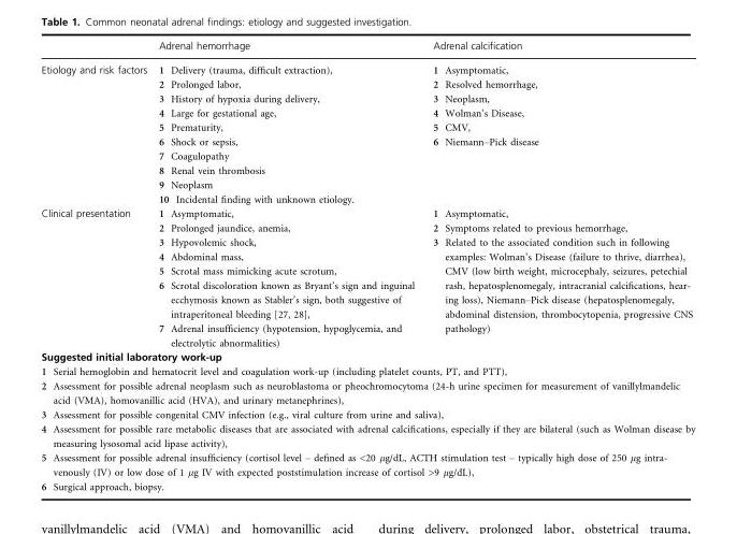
<table><thead><tr><td></td><td>Adrenal hemorrhage</td><td>Adrenal calcification</td></tr></thead><tbody><tr><td>Etiology and risk factors</td><td>1 Delivery (trauma, difficult extraction), 2 Prolonged labor, 3 History of hypoxia during delivery, 4 Large for gestational age, 5 Prematurity, 6 Shock or sepsis, 7 Coagulopathy 8 Renal vein thrombosis 9 Neoplasm 10 Incidental finding with unknown etiology.</td><td>1 Asymptomatic, 2 Resolved hemorrhage, 3 Neoplasm, 4 Wolman’s Disease, 5 CMV, 6 Niemann–Pick disease</td></tr><tr><td>Clinical presentation</td><td>1 Asymptomatic, 2 Prolonged jaundice, anemia, 3 Hypovolemic shock, 4 Abdominal mass, 5 Scrotal mass mimicking acute scrotum, 6 Scrotal discoloration known as Bryant’s sign and inguinal ecchymosis known as Stabler’s sign, both suggestive of intraperitoneal bleeding [27, 28], 7 Adrenal insufficiency (hypotension, hypoglycemia, and electrolytic abnormalities)</td><td>1 Asymptomatic, 2 Symptoms related to previous hemorrhage, 3 Related to the associated condition such in following examples: Wolman’s Disease (failure to thrive, diarrhea), CMV (low birth weight, microcephaly, seizures, petechial rash, hepatosplenomegaly, intracranial calcifications, hear- ing loss), Niemann–Pick disease (hepatosplenomegaly, abdominal distension, thrombocytopenia, progressive CNS pathology)</td></tr><tr><td colspan="3">Suggested initial laboratory work-up</td></tr><tr><td colspan="3">1 Serial hemoglobin and hematocrit level and coagulation work-up (including platelet counts, PT, and PTT), 2 Assessment for possible adrenal neoplasm such as neuroblastoma or pheochromocytoma (24-h urine specimen for measurement of vanillylmandelic acid (VMA), homovanillic acid (HVA), and urinary metanephrines), 3 Assessment for possible congenital CMV infection (e.g., viral culture from urine and saliva), 4 Assessment for possible rare metabolic diseases that are associated with adrenal calcifications, especially if they are bilateral (such as Wolman disease by measuring lysosomal acid lipase activity), 5 Assessment for possible adrenal insufficiency (cortisol level – defined as &lt;20 lg/dL, ACTH stimulation test – typically high dose of 250 lg intra- venously (IV) or low dose of 1 lg IV with expected poststimulation increase of cortisol &gt;9 lg/dL), 6 Surgical approach, biopsy.</td></tr></tbody></table>